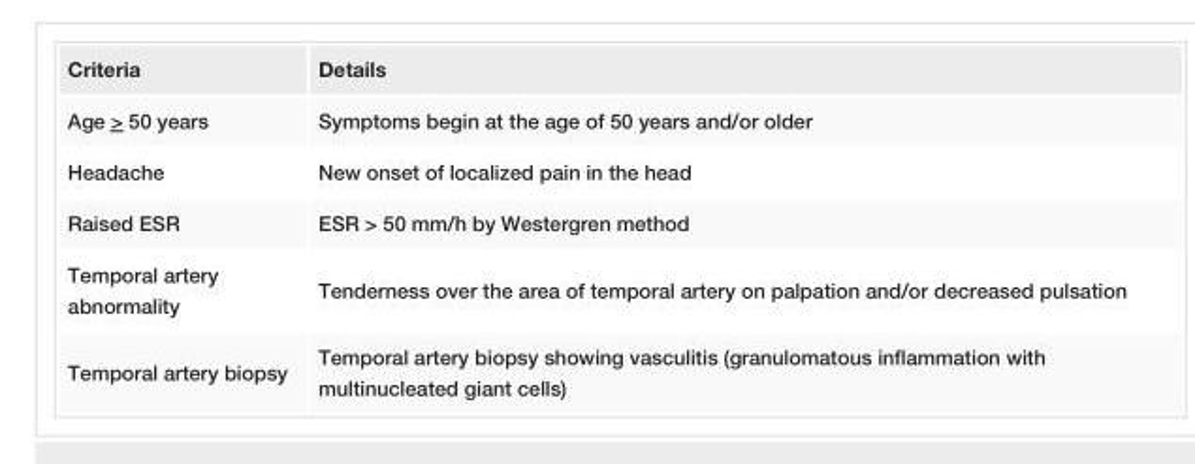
<table><tbody><tr><td>Criteria</td><td>Details</td></tr><tr><td>Age &gt; 50 years</td><td>Symptoms begin at the age of 50 years and/or older</td></tr><tr><td>Headache</td><td>New onset of localized pain in the head</td></tr><tr><td>Raised ESR</td><td>ESR &gt; 50 mm/h by Westergren method</td></tr><tr><td>Temporal artery abnormality</td><td>Tenderness over the area of temporal artery on palpation and/or decreased pulsation</td></tr><tr><td>Temporal artery biopsy</td><td>Temporal artery biopsy showing vasculitis (granulomatous inflammation with multinucleated giant cells)</td></tr></tbody></table>